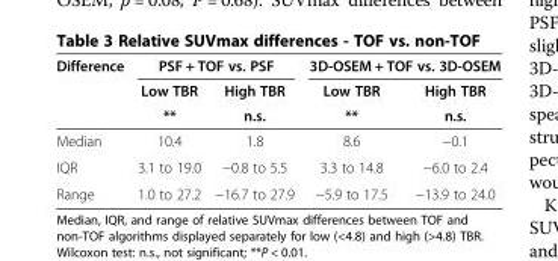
<table><thead><tr><td rowspan="3">Difference</td><td colspan="2">PSF + TOF vs. PSF</td><td colspan="2">3D-OSEM + TOF vs. 3D-OSEM</td></tr><tr><td rowspan="2">Low TBR **</td><td rowspan="2">High TBR n.s.</td><td rowspan="2">Low TBR **</td><td rowspan="2">High TBR n.s.</td></tr><tr></tr></thead><tbody><tr><td>Median</td><td>10.4</td><td>1.8</td><td>8.6</td><td>−0.1</td></tr><tr><td>IQR</td><td>3.1 to 19.0</td><td>−0.8 to 5.5</td><td>3.3 to 14.8</td><td>−6.0 to 2.4</td></tr><tr><td>Range</td><td>1.0 to 27.2</td><td>−16.7 to 27.9</td><td>−5.9 to 17.5</td><td>−13.9 to 24.0</td></tr></tbody></table>